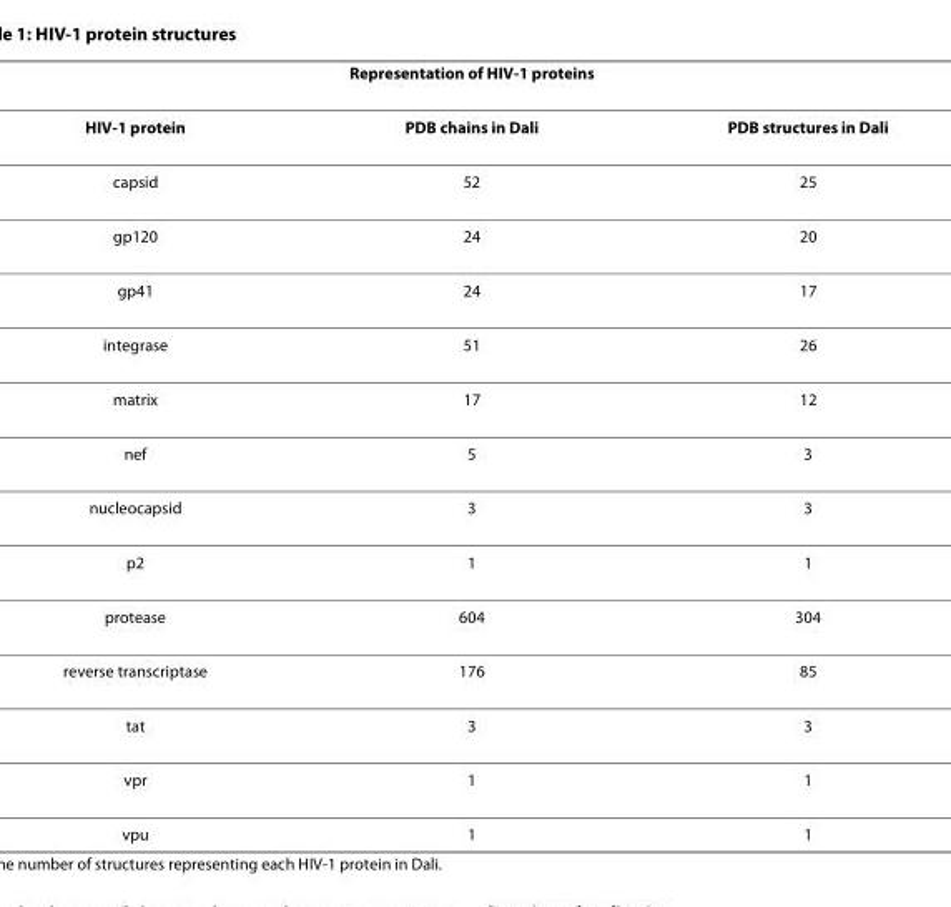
<table><thead><tr><td colspan="3">Representation of HIV-1 proteins</td></tr><tr><td>HIV-1 protein</td><td>PDB chains in Dali</td><td>PDB structures in Dali</td></tr></thead><tbody><tr><td>capsid</td><td>52</td><td>25</td></tr><tr><td>gp120</td><td>24</td><td>20</td></tr><tr><td>gp41</td><td>24</td><td>17</td></tr><tr><td>integrase</td><td>51</td><td>26</td></tr><tr><td>matrix</td><td>17</td><td>12</td></tr><tr><td>nef</td><td>5</td><td>3</td></tr><tr><td>nucleocapsid</td><td>3</td><td>3</td></tr><tr><td>p2</td><td>1</td><td>1</td></tr><tr><td>protease</td><td>604</td><td>304</td></tr><tr><td>reverse transcriptase</td><td>176</td><td>85</td></tr><tr><td>tat</td><td>3</td><td>3</td></tr><tr><td>vpr</td><td>1</td><td>1</td></tr><tr><td>vpu</td><td>1</td><td>1</td></tr></tbody></table>